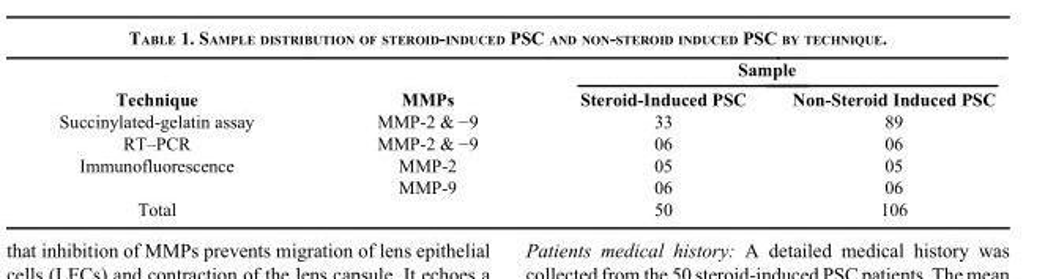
<table><thead><tr><td rowspan="2">Technique</td><td rowspan="2">MMPs</td><td colspan="2">Sample</td></tr><tr><td>Steroid-Induced PSC</td><td>Non-Steroid Induced PSC</td></tr></thead><tbody><tr><td>Succinylated-gelatin assay</td><td>MMP-2 &amp; −9</td><td>33</td><td>89</td></tr><tr><td>RT–PCR</td><td>MMP-2 &amp; −9</td><td>06</td><td>06</td></tr><tr><td rowspan="2">Immunofluorescence</td><td>MMP-2</td><td>05</td><td>05</td></tr><tr><td>MMP-9</td><td>06</td><td>06</td></tr><tr><td>Total</td><td></td><td>50</td><td>106</td></tr></tbody></table>